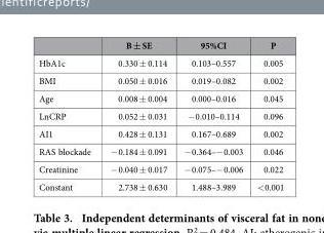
<table><thead><tr><td></td><td>B ± SE</td><td>95%CI</td><td>P</td></tr></thead><tbody><tr><td>HbA1c</td><td>0.330 ± 0.114</td><td>0.103–0.557</td><td>0.005</td></tr><tr><td>BMI</td><td>0.050 ± 0.016</td><td>0.019–0.082</td><td>0.002</td></tr><tr><td>Age</td><td>0.008 ± 0.004</td><td>0.000–0.016</td><td>0.045</td></tr><tr><td>LnCRP</td><td>0.052 ± 0.031</td><td>− 0.010–0.114</td><td>0.096</td></tr><tr><td>AI1</td><td>0.428 ± 0.131</td><td>0.167–0.689</td><td>0.002</td></tr><tr><td>RAS blockade</td><td>− 0.184 ± 0.091</td><td>− 0.364–− 0.003</td><td>0.046</td></tr><tr><td>Creatinine</td><td>− 0.040 ± 0.017</td><td>− 0.075–− 0.006</td><td>0.022</td></tr><tr><td>Constant</td><td>2.738 ± 0.630</td><td>1.488–3.989</td><td>&lt;0.001</td></tr></tbody></table>